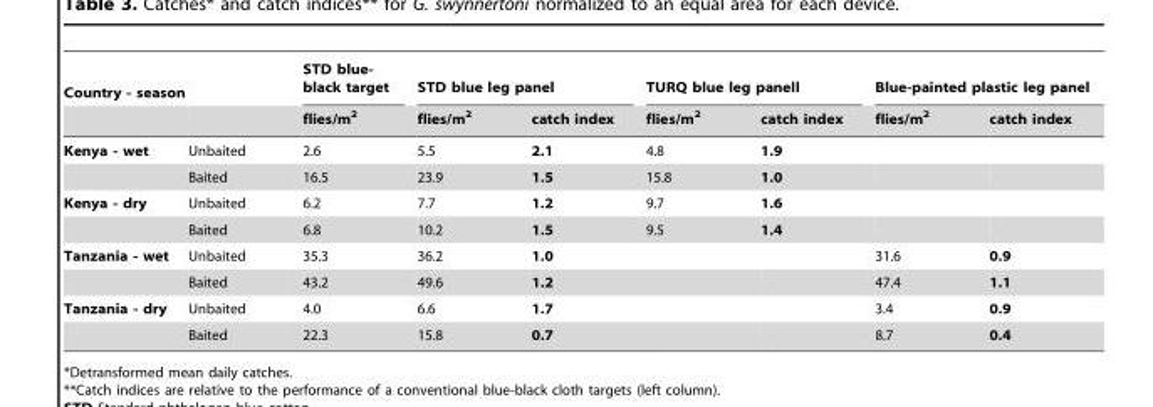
<table><thead><tr><td rowspan="2">Country - season</td><td rowspan="2"></td><td rowspan="2">STD blue- black target flies/m<sup>2</sup></td><td colspan="2">STD blue leg panel</td><td colspan="2">TURQ blue leg panell</td><td colspan="2">Blue-painted plastic leg panel</td></tr><tr><td>flies/m<sup>2</sup></td><td>catch index</td><td>flies/m<sup>2</sup></td><td>catch index</td><td>flies/m<sup>2</sup></td><td>catch index</td></tr></thead><tbody><tr><td rowspan="2">Kenya - wet</td><td>Unbaited</td><td>2.6</td><td>5.5</td><td>2.1</td><td>4.8</td><td>1.9</td><td></td><td></td></tr><tr><td>Baited</td><td>16.5</td><td>23.9</td><td>1.5</td><td>15.8</td><td>1.0</td><td></td><td></td></tr><tr><td rowspan="2">Kenya - dry</td><td>Unbaited</td><td>6.2</td><td>7.7</td><td>1.2</td><td>9.7</td><td>1.6</td><td></td><td></td></tr><tr><td>Baited</td><td>6.8</td><td>10.2</td><td>1.5</td><td>9.5</td><td>1.4</td><td></td><td></td></tr><tr><td rowspan="2">Tanzania - wet</td><td>Unbaited</td><td>35.3</td><td>36.2</td><td>1.0</td><td></td><td></td><td>31.6</td><td>0.9</td></tr><tr><td>Baited</td><td>43.2</td><td>49.6</td><td>1.2</td><td></td><td></td><td>47.4</td><td>1.1</td></tr><tr><td rowspan="2">Tanzania - dry</td><td>Unbaited</td><td>4.0</td><td>6.6</td><td>1.7</td><td></td><td></td><td>3.4</td><td>0.9</td></tr><tr><td>Baited</td><td>22.3</td><td>15.8</td><td>0.7</td><td></td><td></td><td>8.7</td><td>0.4</td></tr></tbody></table>